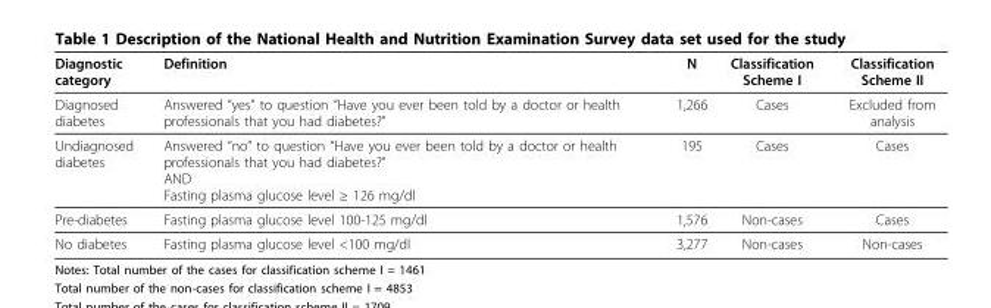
<table><thead><tr><td>Diagnostic category</td><td>Definition</td><td>N</td><td>Classification Scheme I</td><td>Classification Scheme II</td></tr></thead><tbody><tr><td>Diagnosed diabetes</td><td>Answered “yes” to question “Have you ever been told by a doctor or health professionals that you had diabetes?”</td><td>1,266</td><td>Cases</td><td>Excluded from analysis</td></tr><tr><td>Undiagnosed diabetes</td><td>Answered “no” to question “Have you ever been told by a doctor or health professionals that you had diabetes?” AND Fasting plasma glucose level ≥ 126 mg/dl</td><td>195</td><td>Cases</td><td>Cases</td></tr><tr><td>Pre-diabetes</td><td>Fasting plasma glucose level 100-125 mg/dl</td><td>1,576</td><td>Non-cases</td><td>Cases</td></tr><tr><td>No diabetes</td><td>Fasting plasma glucose level &lt;100 mg/dl</td><td>3,277</td><td>Non-cases</td><td>Non-cases</td></tr></tbody></table>